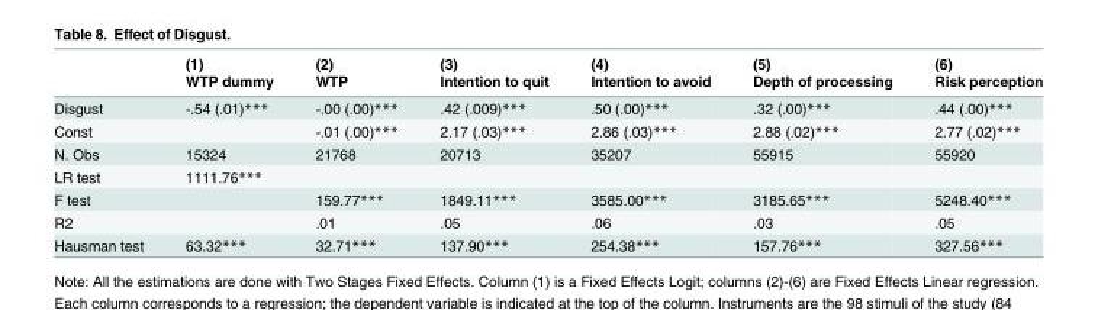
<table><thead><tr><td rowspan="2"></td><td rowspan="2">(1) WTP dummy</td><td rowspan="2">(2) WTP</td><td rowspan="2">(3) Intention to quit</td><td rowspan="2">(4) Intention to avoid</td><td rowspan="2">(5) Depth of processing</td><td rowspan="2">(6) Risk perception</td></tr><tr></tr></thead><tbody><tr><td>Disgust</td><td>-.54 (.01)***</td><td>-.00 (.00)***</td><td>.42 (.009)***</td><td>.50 (.00)***</td><td>.32 (.00)***</td><td>.44 (.00)***</td></tr><tr><td>Const</td><td></td><td>-.01 (.00)***</td><td>2.17 (.03)***</td><td>2.86 (.03)***</td><td>2.88 (.02)***</td><td>2.77 (.02)***</td></tr><tr><td>N. Obs</td><td>15324</td><td>21768</td><td>20713</td><td>35207</td><td>55915</td><td>55920</td></tr><tr><td>LR test</td><td>1111.76***</td><td></td><td></td><td></td><td></td><td></td></tr><tr><td>F test</td><td></td><td>159.77***</td><td>1849.11***</td><td>3585.00***</td><td>3185.65***</td><td>5248.40***</td></tr><tr><td>R2</td><td></td><td>.01</td><td>.05</td><td>.06</td><td>.03</td><td>.05</td></tr><tr><td>Hausman test</td><td>63.32***</td><td>32.71***</td><td>137.90***</td><td>254.38***</td><td>157.76***</td><td>327.56***</td></tr></tbody></table>